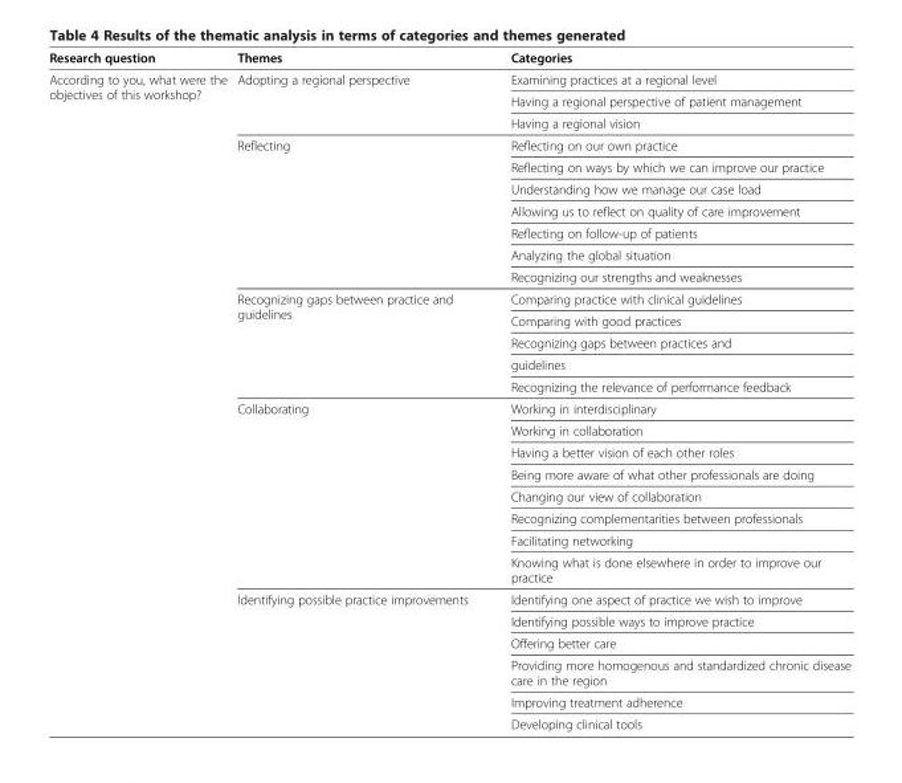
<table><thead><tr><td>Research question</td><td>Themes</td><td>Categories</td></tr></thead><tbody><tr><td rowspan="29">According to you, what were the objectives of this workshop?</td><td rowspan="3">Adopting a regional perspective</td><td>Examining practices at a regional level</td></tr><tr><td>Having a regional perspective of patient management</td></tr><tr><td>Having a regional vision</td></tr><tr><td rowspan="7">Reflecting</td><td>Reflecting on our own practice</td></tr><tr><td>Reflecting on ways by which we can improve our practice</td></tr><tr><td>Understanding how we manage our case load</td></tr><tr><td>Allowing us to reflect on quality of care improvement</td></tr><tr><td>Reflecting on follow-up of patients</td></tr><tr><td>Analyzing the global situation</td></tr><tr><td>Recognizing our strengths and weaknesses</td></tr><tr><td rowspan="5">Recognizing gaps between practice and guidelines</td><td>Comparing practice with clinical guidelines</td></tr><tr><td>Comparing with good practices</td></tr><tr><td>Recognizing gaps between practices and</td></tr><tr><td>guidelines</td></tr><tr><td>Recognizing the relevance of performance feedback</td></tr><tr><td rowspan="8">Collaborating</td><td>Working in interdisciplinary</td></tr><tr><td>Working in collaboration</td></tr><tr><td>Having a better vision of each other roles</td></tr><tr><td>Being more aware of what other professionals are doing</td></tr><tr><td>Changing our view of collaboration</td></tr><tr><td>Recognizing complementarities between professionals</td></tr><tr><td>Facilitating networking</td></tr><tr><td>Knowing what is done elsewhere in order to improve our practice</td></tr><tr><td rowspan="6">Identifying possible practice improvements</td><td>Identifying one aspect of practice we wish to improve</td></tr><tr><td>Identifying possible ways to improve practice</td></tr><tr><td>Offering better care</td></tr><tr><td>Providing more homogenous and standardized chronic disease care in the region</td></tr><tr><td>Improving treatment adherence</td></tr><tr><td>Developing clinical tools</td></tr></tbody></table>